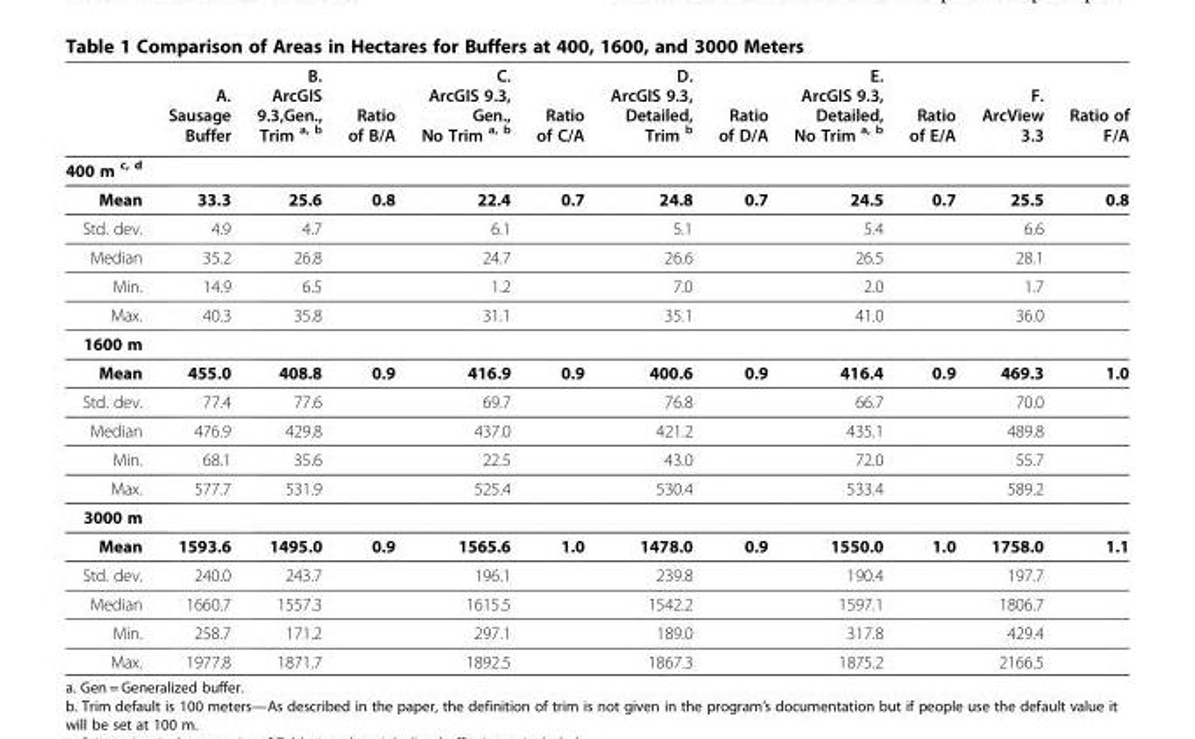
<table><thead><tr><td></td><td>A. Sausage Buffer</td><td>B. ArcGIS 9.3,Gen., Trim <sup>a, b</sup></td><td>Ratio of B/A</td><td>C. ArcGIS 9.3, Gen., No Trim <sup>a, b</sup></td><td>Ratio of C/A</td><td>D. ArcGIS 9.3, Detailed, Trim <sup>b</sup></td><td>Ratio of D/A</td><td>E. ArcGIS 9.3, Detailed, No Trim <sup>a, b</sup></td><td>Ratio of E/A</td><td>F. ArcView 3.3</td><td>Ratio of F/A</td></tr></thead><tbody><tr><td colspan="12">400 m <sup>c, d</sup></td></tr><tr><td>Mean</td><td>33.3</td><td>25.6</td><td>0.8</td><td>22.4</td><td>0.7</td><td>24.8</td><td>0.7</td><td>24.5</td><td>0.7</td><td>25.5</td><td>0.8</td></tr><tr><td>Std. dev.</td><td>4.9</td><td>4.7</td><td></td><td>6.1</td><td></td><td>5.1</td><td></td><td>5.4</td><td></td><td>6.6</td><td></td></tr><tr><td>Median</td><td>35.2</td><td>26.8</td><td></td><td>24.7</td><td></td><td>26.6</td><td></td><td>26.5</td><td></td><td>28.1</td><td></td></tr><tr><td>Min.</td><td>14.9</td><td>6.5</td><td></td><td>1.2</td><td></td><td>7.0</td><td></td><td>2.0</td><td></td><td>1.7</td><td></td></tr><tr><td>Max.</td><td>40.3</td><td>35.8</td><td></td><td>31.1</td><td></td><td>35.1</td><td></td><td>41.0</td><td></td><td>36.0</td><td></td></tr><tr><td colspan="12">1600 m</td></tr><tr><td>Mean</td><td>455.0</td><td>408.8</td><td>0.9</td><td>416.9</td><td>0.9</td><td>400.6</td><td>0.9</td><td>416.4</td><td>0.9</td><td>469.3</td><td>1.0</td></tr><tr><td>Std. dev.</td><td>77.4</td><td>77.6</td><td></td><td>69.7</td><td></td><td>76.8</td><td></td><td>66.7</td><td></td><td>70.0</td><td></td></tr><tr><td>Median</td><td>476.9</td><td>429.8</td><td></td><td>437.0</td><td></td><td>421.2</td><td></td><td>435.1</td><td></td><td>489.8</td><td></td></tr><tr><td>Min.</td><td>68.1</td><td>35.6</td><td></td><td>22.5</td><td></td><td>43.0</td><td></td><td>72.0</td><td></td><td>55.7</td><td></td></tr><tr><td>Max.</td><td>577.7</td><td>531.9</td><td></td><td>525.4</td><td></td><td>530.4</td><td></td><td>533.4</td><td></td><td>589.2</td><td></td></tr><tr><td colspan="12">3000 m</td></tr><tr><td>Mean</td><td>1593.6</td><td>1495.0</td><td>0.9</td><td>1565.6</td><td>1.0</td><td>1478.0</td><td>0.9</td><td>1550.0</td><td>1.0</td><td>1758.0</td><td>1.1</td></tr><tr><td>Std. dev.</td><td>240.0</td><td>243.7</td><td></td><td>196.1</td><td></td><td>239.8</td><td></td><td>190.4</td><td></td><td>197.7</td><td></td></tr><tr><td>Median</td><td>1660.7</td><td>1557.3</td><td></td><td>1615.5</td><td></td><td>1542.2</td><td></td><td>1597.1</td><td></td><td>1806.7</td><td></td></tr><tr><td>Min.</td><td>258.7</td><td>171.2</td><td></td><td>297.1</td><td></td><td>189.0</td><td></td><td>317.8</td><td></td><td>429.4</td><td></td></tr><tr><td>Max.</td><td>1977.8</td><td>1871.7</td><td></td><td>1892.5</td><td></td><td>1867.3</td><td></td><td>1875.2</td><td></td><td>2166.5</td><td></td></tr></tbody></table>